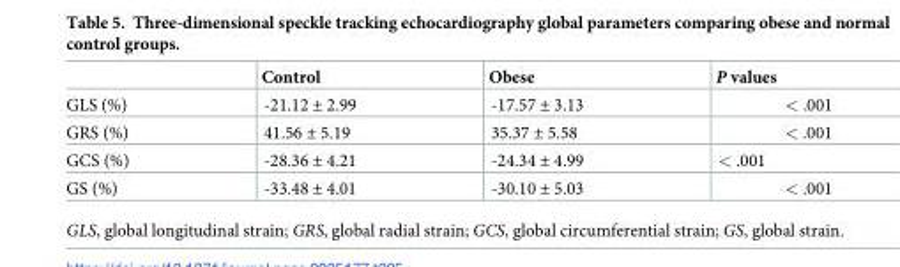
<table><thead><tr><td></td><td>Control</td><td>Obese</td><td>P values</td></tr></thead><tbody><tr><td>GLS (%)</td><td>-21.12 ± 2.99</td><td>-17.57 ± 3.13</td><td>&lt; .001</td></tr><tr><td>GRS (%)</td><td>41.56 ± 5.19</td><td>35.37 ± 5.58</td><td>&lt; .001</td></tr><tr><td>GCS (%)</td><td>-28.36 ± 4.21</td><td>-24.34 ± 4.99</td><td>&lt; .001</td></tr><tr><td>GS (%)</td><td>-33.48 ± 4.01</td><td>-30.10 ± 5.03</td><td>&lt; .001</td></tr></tbody></table>